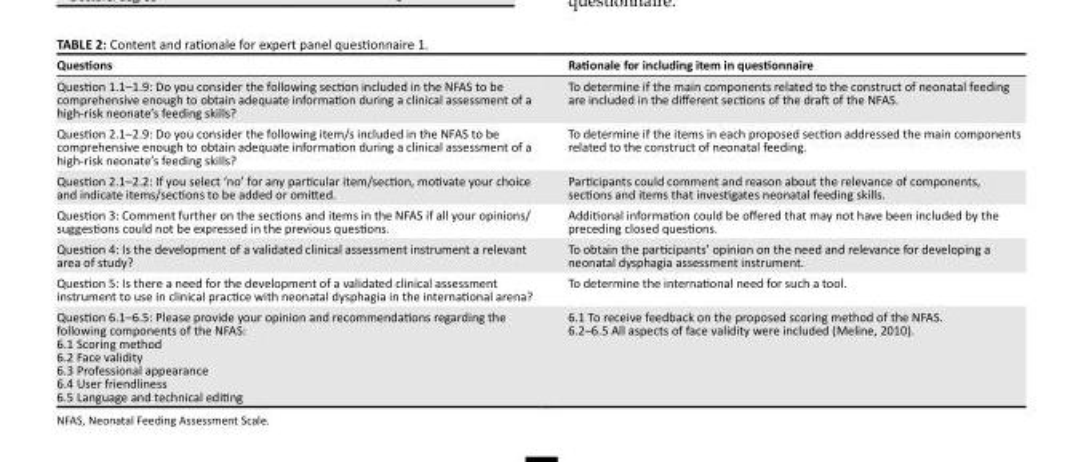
<table><thead><tr><td>Questions</td><td>Rationale for including item in questionnaire</td></tr></thead><tbody><tr><td>Question 1.1–1.9: Do you consider the following section included in the NFAS to be comprehensive enough to obtain adequate information during a clinical assessment of a high‐risk neonate’s feeding skills?</td><td>To determine if the main components related to the construct of neonatal feeding are included in the different sections of the draft of the NFAS.</td></tr><tr><td>Question 2.1–2.9: Do you consider the following item/s included in the NFAS to be comprehensive enough to obtain adequate information during a clinical assessment of a high‐risk neonate’s feeding skills?</td><td>To determine if the items in each proposed section addressed the main components related to the construct of neonatal feeding.</td></tr><tr><td>Question 2.1–2.2: If you select ‘no’ for any particular item/section, motivate your choice and indicate items/sections to be added or omitted.</td><td>Participants could comment and reason about the relevance of components, sections and items that investigates neonatal feeding skills.</td></tr><tr><td>Question 3: Comment further on the sections and items in the NFAS if all your opinions/ suggestions could not be expressed in the previous questions.</td><td>Additional information could be offered that may not have been included by the preceding closed questions.</td></tr><tr><td>Question 4: Is the development of a validated clinical assessment instrument a relevant area of study?</td><td>To obtain the participants’ opinion on the need and relevance for developing a neonatal dysphagia assessment instrument.</td></tr><tr><td>Question 5: Is there a need for the development of a validated clinical assessment instrument to use in clinical practice with neonatal dysphagia in the international arena?</td><td>To determine the international need for such a tool.</td></tr><tr><td>Question 6.1–6.5: Please provide your opinion and recommendations regarding the following components of the NFAS: 6.1 Scoring method 6.2 Face validity 6.3 Professional appearance 6.4 User friendliness 6.5 Language and technical editing</td><td>6.1 To receive feedback on the proposed scoring method of the NFAS. 6.2–6.5 All aspects of face validity were included (Meline, 2010).</td></tr></tbody></table>